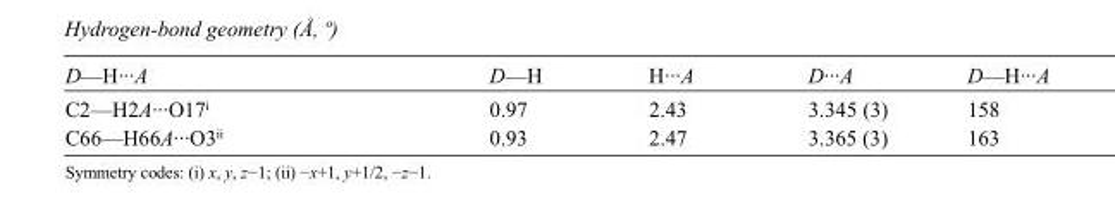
<table><tbody><tr><td>D—H···A</td><td>D—H</td><td>H···A</td><td>D···A</td><td>D—H···A</td></tr><tr><td>C2—H2A···O17<sup>i</sup></td><td>0.97</td><td>2.43</td><td>3.345 (3)</td><td>158</td></tr><tr><td>C66—H66A···O3<sup>ii</sup></td><td>0.93</td><td>2.47</td><td>3.365 (3)</td><td>163</td></tr></tbody></table>